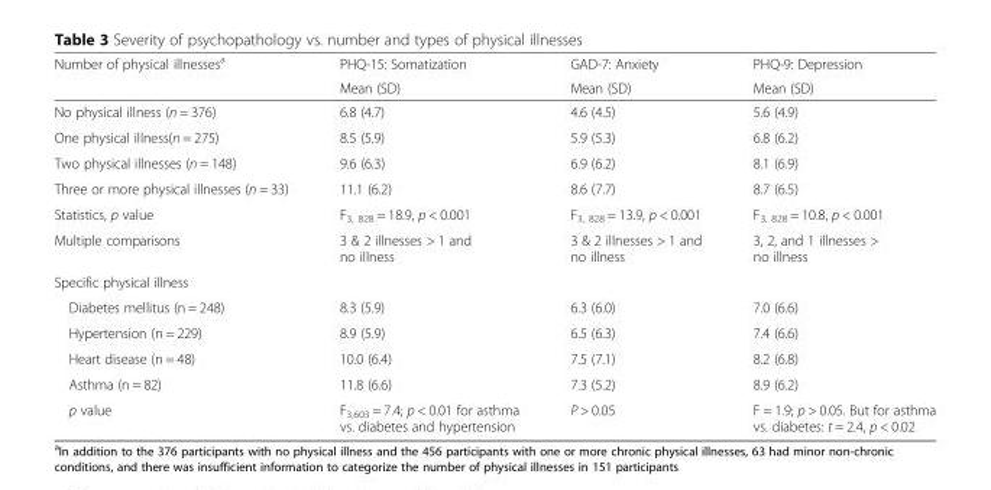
<table><thead><tr><td rowspan="2">Number of physical illnesses<sup>a</sup></td><td rowspan="2">PHQ-15: Somatization Mean (SD)</td><td rowspan="2">GAD-7: Anxiety Mean (SD)</td><td rowspan="2">PHQ-9: Depression Mean (SD)</td></tr><tr></tr></thead><tbody><tr><td>No physical illness (n = 376)</td><td>6.8 (4.7)</td><td>4.6 (4.5)</td><td>5.6 (4.9)</td></tr><tr><td>One physical illness(n = 275)</td><td>8.5 (5.9)</td><td>5.9 (5.3)</td><td>6.8 (6.2)</td></tr><tr><td>Two physical illnesses (n = 148)</td><td>9.6 (6.3)</td><td>6.9 (6.2)</td><td>8.1 (6.9)</td></tr><tr><td>Three or more physical illnesses (n = 33)</td><td>11.1 (6.2)</td><td>8.6 (7.7)</td><td>8.7 (6.5)</td></tr><tr><td>Statistics, p value</td><td>F<sub>3, 828</sub> = 18.9, p &lt; 0.001</td><td>F<sub>3, 828</sub> = 13.9, p &lt; 0.001</td><td>F<sub>3, 828</sub> = 10.8, p &lt; 0.001</td></tr><tr><td>Multiple comparisons</td><td>3 &amp; 2 illnesses &gt; 1 and no illness</td><td>3 &amp; 2 illnesses &gt; 1 and no illness</td><td>3, 2, and 1 illnesses &gt; no illness</td></tr><tr><td colspan="4">Specific physical illness</td></tr><tr><td>Diabetes mellitus (n = 248)</td><td>8.3 (5.9)</td><td>6.3 (6.0)</td><td>7.0 (6.6)</td></tr><tr><td>Hypertension (n = 229)</td><td>8.9 (5.9)</td><td>6.5 (6.3)</td><td>7.4 (6.6)</td></tr><tr><td>Heart disease (n = 48)</td><td>10.0 (6.4)</td><td>7.5 (7.1)</td><td>8.2 (6.8)</td></tr><tr><td>Asthma (n = 82)</td><td>11.8 (6.6)</td><td>7.3 (5.2)</td><td>8.9 (6.2)</td></tr><tr><td>p value</td><td>F<sub>3,603</sub> = 7.4; p &lt; 0.01 for asthma vs. diabetes and hypertension</td><td>P &gt; 0.05</td><td>F = 1.9; p &gt; 0.05. But for asthma vs. diabetes: t = 2.4, p &lt; 0.02</td></tr></tbody></table>